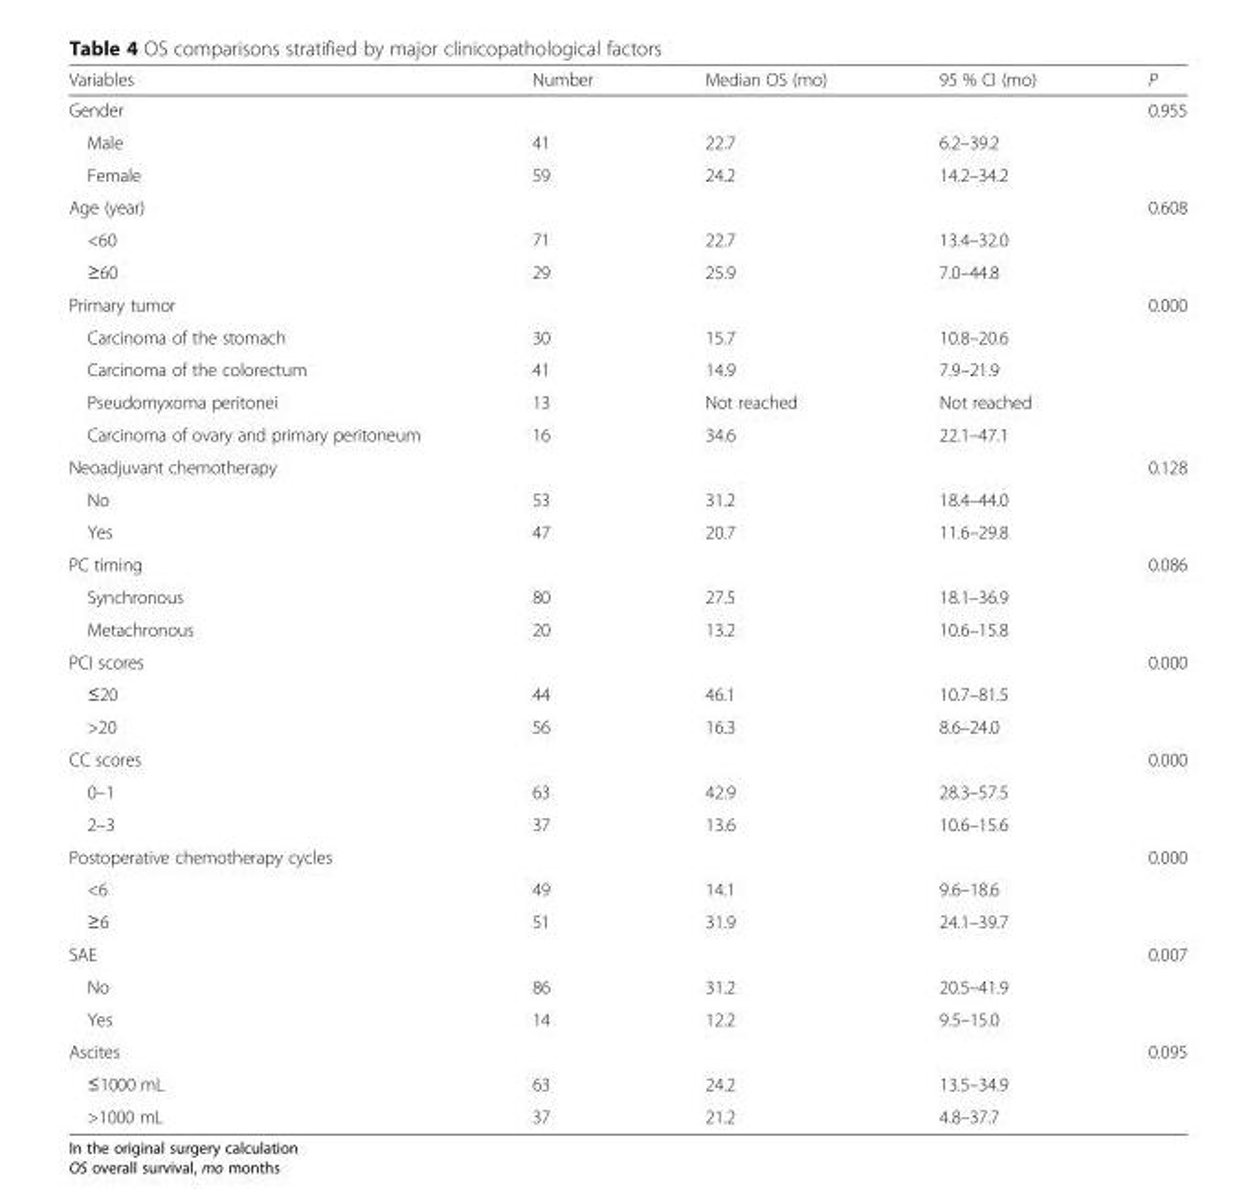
<table><thead><tr><td>Variables</td><td>Number</td><td>Median OS (mo)</td><td>95 % CI (mo)</td><td>P</td></tr></thead><tbody><tr><td colspan="4">Gender</td><td>0.955</td></tr><tr><td>Male</td><td>41</td><td>22.7</td><td>6.2–39.2</td><td></td></tr><tr><td>Female</td><td>59</td><td>24.2</td><td>14.2–34.2</td><td></td></tr><tr><td colspan="4">Age (year)</td><td>0.608</td></tr><tr><td>&lt;60</td><td>71</td><td>22.7</td><td>13.4–32.0</td><td></td></tr><tr><td>≥60</td><td>29</td><td>25.9</td><td>7.0–44.8</td><td></td></tr><tr><td colspan="4">Primary tumor</td><td>0.000</td></tr><tr><td>Carcinoma of the stomach</td><td>30</td><td>15.7</td><td>10.8–20.6</td><td></td></tr><tr><td>Carcinoma of the colorectum</td><td>41</td><td>14.9</td><td>7.9–21.9</td><td></td></tr><tr><td>Pseudomyxoma peritonei</td><td>13</td><td>Not reached</td><td>Not reached</td><td></td></tr><tr><td>Carcinoma of ovary and primary peritoneum</td><td>16</td><td>34.6</td><td>22.1–47.1</td><td></td></tr><tr><td colspan="4">Neoadjuvant chemotherapy</td><td>0.128</td></tr><tr><td>No</td><td>53</td><td>31.2</td><td>18.4–44.0</td><td></td></tr><tr><td>Yes</td><td>47</td><td>20.7</td><td>11.6–29.8</td><td></td></tr><tr><td colspan="4">PC timing</td><td>0.086</td></tr><tr><td>Synchronous</td><td>80</td><td>27.5</td><td>18.1–36.9</td><td></td></tr><tr><td>Metachronous</td><td>20</td><td>13.2</td><td>10.6–15.8</td><td></td></tr><tr><td colspan="4">PCI scores</td><td>0.000</td></tr><tr><td>≤20</td><td>44</td><td>46.1</td><td>10.7–81.5</td><td></td></tr><tr><td>&gt;20</td><td>56</td><td>16.3</td><td>8.6–24.0</td><td></td></tr><tr><td colspan="4">CC scores</td><td>0.000</td></tr><tr><td>0–1</td><td>63</td><td>42.9</td><td>28.3–57.5</td><td></td></tr><tr><td>2–3</td><td>37</td><td>13.6</td><td>10.6–15.6</td><td></td></tr><tr><td colspan="4">Postoperative chemotherapy cycles</td><td>0.000</td></tr><tr><td>&lt;6</td><td>49</td><td>14.1</td><td>9.6–18.6</td><td></td></tr><tr><td>≥6</td><td>51</td><td>31.9</td><td>24.1–39.7</td><td></td></tr><tr><td colspan="4">SAE</td><td>0.007</td></tr><tr><td>No</td><td>86</td><td>31.2</td><td>20.5–41.9</td><td></td></tr><tr><td>Yes</td><td>14</td><td>12.2</td><td>9.5–15.0</td><td></td></tr><tr><td>Ascites</td><td></td><td></td><td></td><td>0.095</td></tr><tr><td>≤1000 mL</td><td>63</td><td>24.2</td><td>13.5–34.9</td><td></td></tr><tr><td>&gt;1000 mL</td><td>37</td><td>21.2</td><td>4.8–37.7</td><td></td></tr></tbody></table>